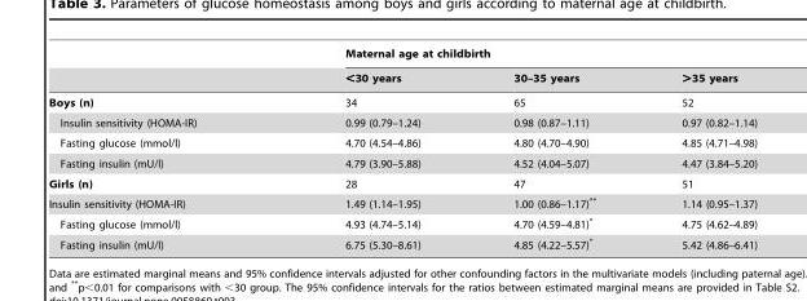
<table><thead><tr><td rowspan="2"></td><td colspan="3">Maternal age at childbirth</td></tr><tr><td>&lt;30 years</td><td>30–35 years</td><td>&gt;35 years</td></tr></thead><tbody><tr><td>Boys (n)</td><td>34</td><td>65</td><td>52</td></tr><tr><td>Insulin sensitivity (HOMA-IR)</td><td>0.99 (0.79–1.24)</td><td>0.98 (0.87–1.11)</td><td>0.97 (0.82–1.14)</td></tr><tr><td>Fasting glucose (mmol/l)</td><td>4.70 (4.54–4.86)</td><td>4.80 (4.70–4.90)</td><td>4.85 (4.71–4.98)</td></tr><tr><td>Fasting insulin (mU/l)</td><td>4.79 (3.90–5.88)</td><td>4.52 (4.04–5.07)</td><td>4.47 (3.84–5.20)</td></tr><tr><td>Girls (n)</td><td>28</td><td>47</td><td>51</td></tr><tr><td>Insulin sensitivity (HOMA-IR)</td><td>1.49 (1.14–1.95)</td><td>1.00 (0.86–1.17)**</td><td>1.14 (0.95–1.37)</td></tr><tr><td>Fasting glucose (mmol/l)</td><td>4.93 (4.74–5.14)</td><td>4.70 (4.59–4.81)*</td><td>4.75 (4.62–4.89)</td></tr><tr><td>Fasting insulin (mU/l)</td><td>6.75 (5.30–8.61)</td><td>4.85 (4.22–5.57)*</td><td>5.42 (4.86–6.41)</td></tr></tbody></table>